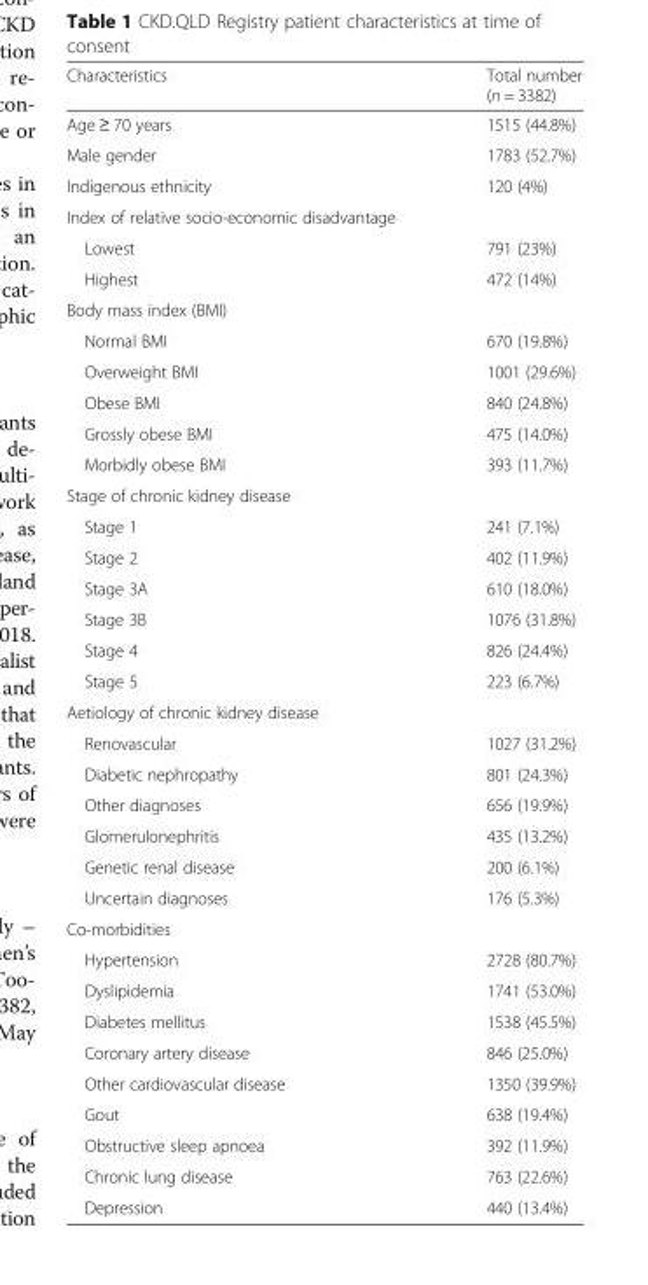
<table><thead><tr><td>Characteristics</td><td>Total number (n = 3382)</td></tr></thead><tbody><tr><td>Age ≥ 70 years</td><td>1515 (44.8%)</td></tr><tr><td>Male gender</td><td>1783 (52.7%)</td></tr><tr><td>Indigenous ethnicity</td><td>120 (4%)</td></tr><tr><td colspan="2">Index of relative socio-economic disadvantage</td></tr><tr><td>Lowest</td><td>791 (23%)</td></tr><tr><td>Highest</td><td>472 (14%)</td></tr><tr><td colspan="2">Body mass index (BMI)</td></tr><tr><td>Normal BMI</td><td>670 (19.8%)</td></tr><tr><td>Overweight BMI</td><td>1001 (29.6%)</td></tr><tr><td>Obese BMI</td><td>840 (24.8%)</td></tr><tr><td>Grossly obese BMI</td><td>475 (14.0%)</td></tr><tr><td>Morbidly obese BMI</td><td>393 (11.7%)</td></tr><tr><td colspan="2">Stage of chronic kidney disease</td></tr><tr><td>Stage 1</td><td>241 (7.1%)</td></tr><tr><td>Stage 2</td><td>402 (11.9%)</td></tr><tr><td>Stage 3A</td><td>610 (18.0%)</td></tr><tr><td>Stage 3B</td><td>1076 (31.8%)</td></tr><tr><td>Stage 4</td><td>826 (24.4%)</td></tr><tr><td>Stage 5</td><td>223 (6.7%)</td></tr><tr><td colspan="2">Aetiology of chronic kidney disease</td></tr><tr><td>Renovascular</td><td>1027 (31.2%)</td></tr><tr><td>Diabetic nephropathy</td><td>801 (24.3%)</td></tr><tr><td>Other diagnoses</td><td>656 (19.9%)</td></tr><tr><td>Glomerulonephritis</td><td>435 (13.2%)</td></tr><tr><td>Genetic renal disease</td><td>200 (6.1%)</td></tr><tr><td>Uncertain diagnoses</td><td>176 (5.3%)</td></tr><tr><td colspan="2">Co-morbidities</td></tr><tr><td>Hypertension</td><td>2728 (80.7%)</td></tr><tr><td>Dyslipidemia</td><td>1741 (53.0%)</td></tr><tr><td>Diabetes mellitus</td><td>1538 (45.5%)</td></tr><tr><td>Coronary artery disease</td><td>846 (25.0%)</td></tr><tr><td>Other cardiovascular disease</td><td>1350 (39.9%)</td></tr><tr><td>Gout</td><td>638 (19.4%)</td></tr><tr><td>Obstructive sleep apnoea</td><td>392 (11.9%)</td></tr><tr><td>Chronic lung disease</td><td>763 (22.6%)</td></tr><tr><td>Depression</td><td>440 (13.4%)</td></tr></tbody></table>